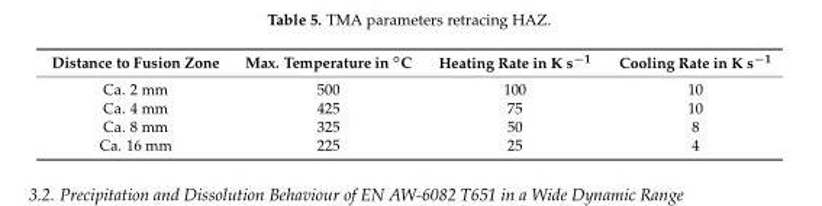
<table><thead><tr><td>Distance to Fusion Zone</td><td>Max. Temperature in ◦C</td><td>Heating Rate in K s<sup>−1</sup></td><td>Cooling Rate in K s<sup>−1</sup></td></tr></thead><tbody><tr><td>Ca. 2 mm</td><td>500</td><td>100</td><td>10</td></tr><tr><td>Ca. 4 mm</td><td>425</td><td>75</td><td>10</td></tr><tr><td>Ca. 8 mm</td><td>325</td><td>50</td><td>8</td></tr><tr><td>Ca. 16 mm</td><td>225</td><td>25</td><td>4</td></tr></tbody></table>